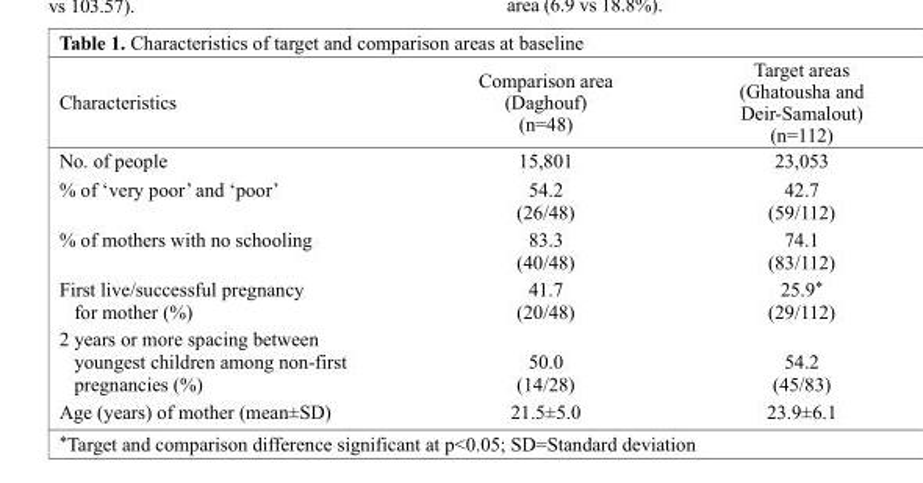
<table><thead><tr><td>Characteristics</td><td>Comparison area (Daghouf) (n=48)</td><td>Target areas (Ghatousha and Deir-Samalout) (n=112)</td></tr></thead><tbody><tr><td>No. of people</td><td>15,801</td><td>23,053</td></tr><tr><td>% of ‘very poor’ and ‘poor’</td><td>54.2 (26/48)</td><td>42.7 (59/112)</td></tr><tr><td>% of mothers with no schooling</td><td>83.3 (40/48)</td><td>74.1 (83/112)</td></tr><tr><td>First live/successful pregnancy for mother (%)</td><td>41.7 (20/48)</td><td>25.9* (29/112)</td></tr><tr><td>2 years or more spacing between youngest children among non-first pregnancies (%)</td><td>50.0 (14/28)</td><td>54.2 (45/83)</td></tr><tr><td>Age (years) of mother (mean±SD)</td><td>21.5±5.0</td><td>23.9±6.1</td></tr></tbody></table>